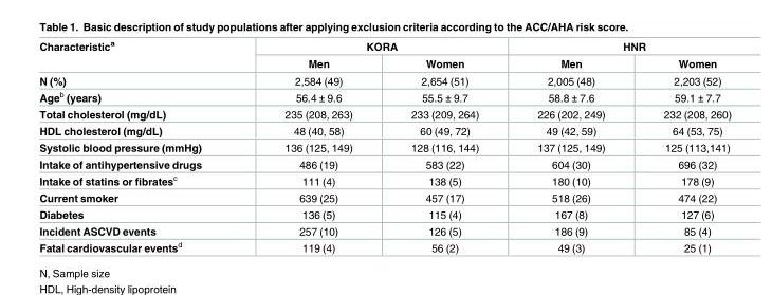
<table><thead><tr><td rowspan="2">Characteristic<sup>a</sup></td><td colspan="2">KORA</td><td colspan="2">HNR</td></tr><tr><td>Men</td><td>Women</td><td>Men</td><td>Women</td></tr></thead><tbody><tr><td>N (%)</td><td>2,584 (49)</td><td>2,654 (51)</td><td>2,005 (48)</td><td>2,203 (52)</td></tr><tr><td>Age<sup>b</sup> (years)</td><td>56.4 ± 9.6</td><td>55.5 ± 9.7</td><td>58.8 ± 7.6</td><td>59.1 ± 7.7</td></tr><tr><td>Total cholesterol (mg/dL)</td><td>235 (208, 263)</td><td>233 (209, 264)</td><td>226 (202, 249)</td><td>232 (208, 260)</td></tr><tr><td>HDL cholesterol (mg/dL)</td><td>48 (40, 58)</td><td>60 (49, 72)</td><td>49 (42, 59)</td><td>64 (53, 75)</td></tr><tr><td>Systolic blood pressure (mmHg)</td><td>136 (125, 149)</td><td>128 (116, 144)</td><td>137 (125, 149)</td><td>125 (113,141)</td></tr><tr><td>Intake of antihypertensive drugs</td><td>486 (19)</td><td>583 (22)</td><td>604 (30)</td><td>696 (32)</td></tr><tr><td>Intake of statins or fibrates<sup>c</sup></td><td>111 (4)</td><td>138 (5)</td><td>180 (10)</td><td>178 (9)</td></tr><tr><td>Current smoker</td><td>639 (25)</td><td>457 (17)</td><td>518 (26)</td><td>474 (22)</td></tr><tr><td>Diabetes</td><td>136 (5)</td><td>115 (4)</td><td>167 (8)</td><td>127 (6)</td></tr><tr><td>Incident ASCVD events</td><td>257 (10)</td><td>126 (5)</td><td>186 (9)</td><td>85 (4)</td></tr><tr><td>Fatal cardiovascular events<sup>d</sup></td><td>119 (4)</td><td>56 (2)</td><td>49 (3)</td><td>25 (1)</td></tr></tbody></table>